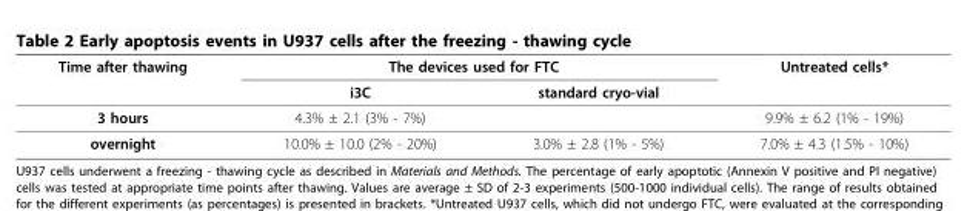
<table><thead><tr><td rowspan="2">Time after thawing</td><td colspan="2">The devices used for FTC</td><td rowspan="2">Untreated cells*</td></tr><tr><td>i3C</td><td>standard cryo-vial</td></tr></thead><tbody><tr><td>3 hours</td><td>4.3% ± 2.1 (3% - 7%)</td><td></td><td>9.9% ± 6.2 (1% - 19%)</td></tr><tr><td>overnight</td><td>10.0% ± 10.0 (2% - 20%)</td><td>3.0% ± 2.8 (1% - 5%)</td><td>7.0% ± 4.3 (1.5% - 10%)</td></tr></tbody></table>